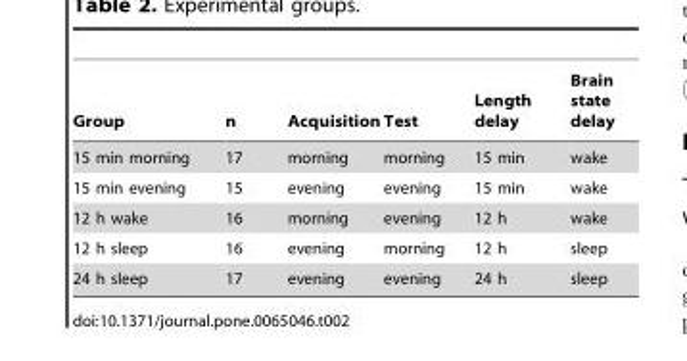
<table><thead><tr><td>Group</td><td>n</td><td>Acquisition</td><td>Test</td><td>Length delay</td><td>Brain state delay</td></tr></thead><tbody><tr><td>15 min morning</td><td>17</td><td>morning</td><td>morning</td><td>15 min</td><td>wake</td></tr><tr><td>15 min evening</td><td>15</td><td>evening</td><td>evening</td><td>15 min</td><td>wake</td></tr><tr><td>12 h wake</td><td>16</td><td>morning</td><td>evening</td><td>12 h</td><td>wake</td></tr><tr><td>12 h sleep</td><td>16</td><td>evening</td><td>morning</td><td>12 h</td><td>sleep</td></tr><tr><td>24 h sleep</td><td>17</td><td>evening</td><td>evening</td><td>24 h</td><td>sleep</td></tr></tbody></table>